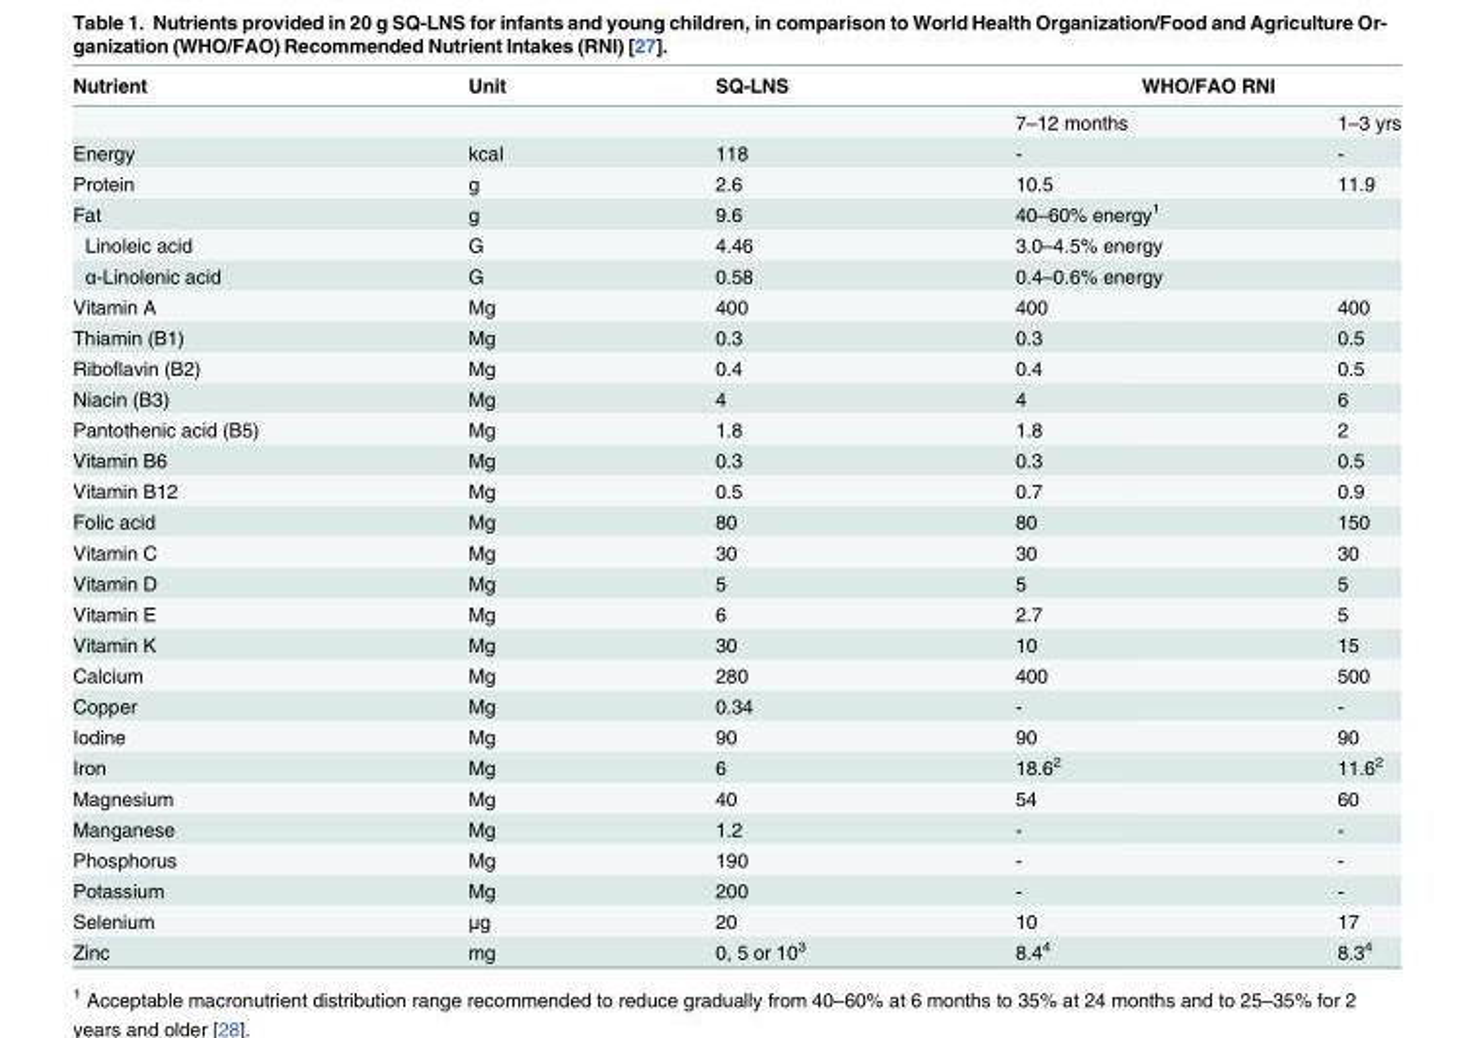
<table><thead><tr><td rowspan="2">Nutrient</td><td rowspan="2">Unit</td><td rowspan="2">SQ-LNS</td><td colspan="2">WHO/FAO RNI</td></tr><tr><td>7–12 months</td><td>1–3 yrs</td></tr></thead><tbody><tr><td>Energy</td><td>kcal</td><td>118</td><td>-</td><td>-</td></tr><tr><td>Protein</td><td>g</td><td>2.6</td><td>10.5</td><td>11.9</td></tr><tr><td>Fat</td><td>g</td><td>9.6</td><td colspan="2">40–60% energy<sup>1</sup></td></tr><tr><td>Linoleic acid</td><td>G</td><td>4.46</td><td colspan="2">3.0–4.5% energy</td></tr><tr><td>α-Linolenic acid</td><td>G</td><td>0.58</td><td colspan="2">0.4–0.6% energy</td></tr><tr><td>Vitamin A</td><td>Μg</td><td>400</td><td>400</td><td>400</td></tr><tr><td>Thiamin (B1)</td><td>Mg</td><td>0.3</td><td>0.3</td><td>0.5</td></tr><tr><td>Riboflavin (B2)</td><td>Mg</td><td>0.4</td><td>0.4</td><td>0.5</td></tr><tr><td>Niacin (B3)</td><td>Mg</td><td>4</td><td>4</td><td>6</td></tr><tr><td>Pantothenic acid (B5)</td><td>Mg</td><td>1.8</td><td>1.8</td><td>2</td></tr><tr><td>Vitamin B6</td><td>Mg</td><td>0.3</td><td>0.3</td><td>0.5</td></tr><tr><td>Vitamin B12</td><td>Μg</td><td>0.5</td><td>0.7</td><td>0.9</td></tr><tr><td>Folic acid</td><td>Μg</td><td>80</td><td>80</td><td>150</td></tr><tr><td>Vitamin C</td><td>Mg</td><td>30</td><td>30</td><td>30</td></tr><tr><td>Vitamin D</td><td>Μg</td><td>5</td><td>5</td><td>5</td></tr><tr><td>Vitamin E</td><td>Mg</td><td>6</td><td>2.7</td><td>5</td></tr><tr><td>Vitamin K</td><td>Μg</td><td>30</td><td>10</td><td>15</td></tr><tr><td>Calcium</td><td>Mg</td><td>280</td><td>400</td><td>500</td></tr><tr><td>Copper</td><td>Mg</td><td>0.34</td><td>-</td><td>-</td></tr><tr><td>Iodine</td><td>Μg</td><td>90</td><td>90</td><td>90</td></tr><tr><td>Iron</td><td>Mg</td><td>6</td><td>18.6<sup>2</sup></td><td>11.6<sup>2</sup></td></tr><tr><td>Magnesium</td><td>Mg</td><td>40</td><td>54</td><td>60</td></tr><tr><td>Manganese</td><td>Mg</td><td>1.2</td><td>-</td><td>-</td></tr><tr><td>Phosphorus</td><td>Mg</td><td>190</td><td>-</td><td>-</td></tr><tr><td>Potassium</td><td>Mg</td><td>200</td><td>-</td><td>-</td></tr><tr><td>Selenium</td><td>μg</td><td>20</td><td>10</td><td>17</td></tr><tr><td>Zinc</td><td>mg</td><td>0, 5 or 10<sup>3</sup></td><td>8.4<sup>4</sup></td><td>8.3<sup>4</sup></td></tr></tbody></table>